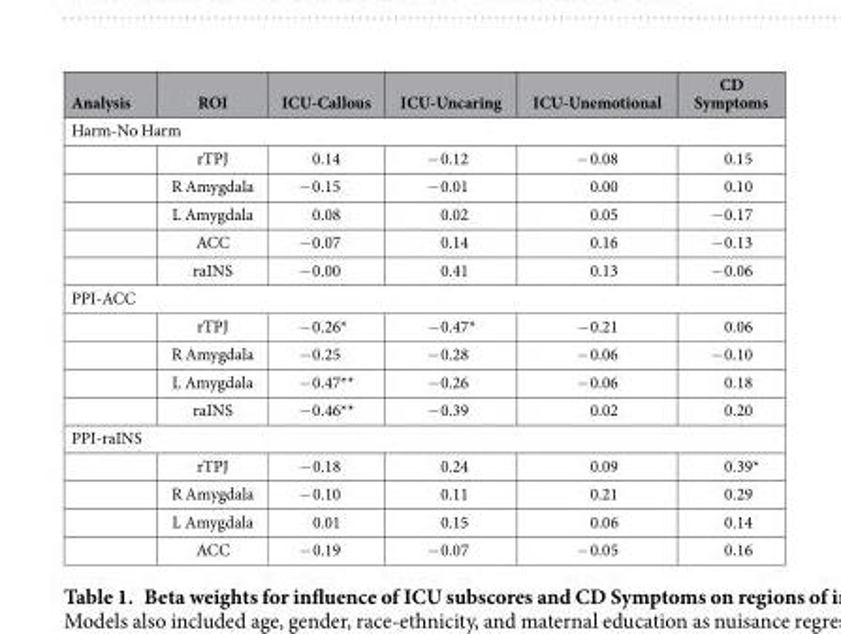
<table><thead><tr><td>Analysis</td><td>ROI</td><td>ICU-Callous</td><td>ICU-Uncaring</td><td>ICU-Unemotional</td><td>CD Symptoms</td></tr></thead><tbody><tr><td colspan="6">Harm-No Harm</td></tr><tr><td></td><td>rTPJ</td><td>0.14</td><td>− 0.12</td><td>− 0.08</td><td>0.15</td></tr><tr><td></td><td>R Amygdala</td><td>− 0.15</td><td>− 0.01</td><td>0.00</td><td>0.10</td></tr><tr><td></td><td>L Amygdala</td><td>0.08</td><td>0.02</td><td>0.05</td><td>− 0.17</td></tr><tr><td></td><td>ACC</td><td>− 0.07</td><td>0.14</td><td>0.16</td><td>− 0.13</td></tr><tr><td></td><td>raINS</td><td>− 0.00</td><td>0.41</td><td>0.13</td><td>− 0.06</td></tr><tr><td colspan="6">PPI-ACC</td></tr><tr><td></td><td>rTPJ</td><td>− 0.26*</td><td>− 0.47*</td><td>− 0.21</td><td>0.06</td></tr><tr><td></td><td>R Amygdala</td><td>− 0.25</td><td>− 0.28</td><td>− 0.06</td><td>− 0.10</td></tr><tr><td></td><td>L Amygdala</td><td>− 0.47**</td><td>− 0.26</td><td>− 0.06</td><td>0.18</td></tr><tr><td></td><td>raINS</td><td>− 0.46**</td><td>− 0.39</td><td>0.02</td><td>0.20</td></tr><tr><td colspan="6">PPI-raINS</td></tr><tr><td></td><td>rTPJ</td><td>− 0.18</td><td>0.24</td><td>0.09</td><td>0.39*</td></tr><tr><td></td><td>R Amygdala</td><td>− 0.10</td><td>0.11</td><td>0.21</td><td>0.29</td></tr><tr><td></td><td>L Amygdala</td><td>0.01</td><td>0.15</td><td>0.06</td><td>0.14</td></tr><tr><td></td><td>ACC</td><td>− 0.19</td><td>− 0.07</td><td>− 0.05</td><td>0.16</td></tr></tbody></table>